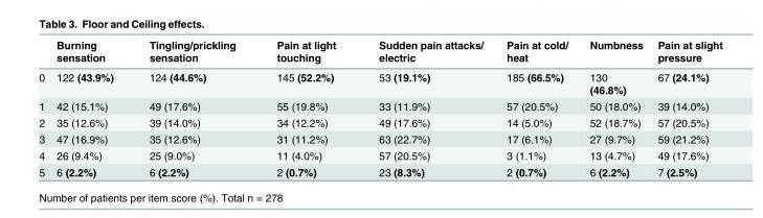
<table><thead><tr><td></td><td>Burning sensation</td><td>Tingling/prickling sensation</td><td>Pain at light touching</td><td>Sudden pain attacks/ electric</td><td>Pain at cold/ heat</td><td>Numbness</td><td>Pain at slight pressure</td></tr></thead><tbody><tr><td>0</td><td>122 (43.9%)</td><td>124 (44.6%)</td><td>145 (52.2%)</td><td>53 (19.1%)</td><td>185 (66.5%)</td><td>130 (46.8%)</td><td>67 (24.1%)</td></tr><tr><td>1</td><td>42 (15.1%)</td><td>49 (17.6%)</td><td>55 (19.8%)</td><td>33 (11.9%)</td><td>57 (20.5%)</td><td>50 (18.0%)</td><td>39 (14.0%)</td></tr><tr><td>2</td><td>35 (12.6%)</td><td>39 (14.0%)</td><td>34 (12.2%)</td><td>49 (17.6%)</td><td>14 (5.0%)</td><td>52 (18.7%)</td><td>57 (20.5%)</td></tr><tr><td>3</td><td>47 (16.9%)</td><td>35 (12.6%)</td><td>31 (11.2%)</td><td>63 (22.7%)</td><td>17 (6.1%)</td><td>27 (9.7%)</td><td>59 (21.2%)</td></tr><tr><td>4</td><td>26 (9.4%)</td><td>25 (9.0%)</td><td>11 (4.0%)</td><td>57 (20.5%)</td><td>3 (1.1%)</td><td>13 (4.7%)</td><td>49 (17.6%)</td></tr><tr><td>5</td><td>6 (2.2%)</td><td>6 (2.2%)</td><td>2 (0.7%)</td><td>23 (8.3%)</td><td>2 (0.7%)</td><td>6 (2.2%)</td><td>7 (2.5%)</td></tr></tbody></table>